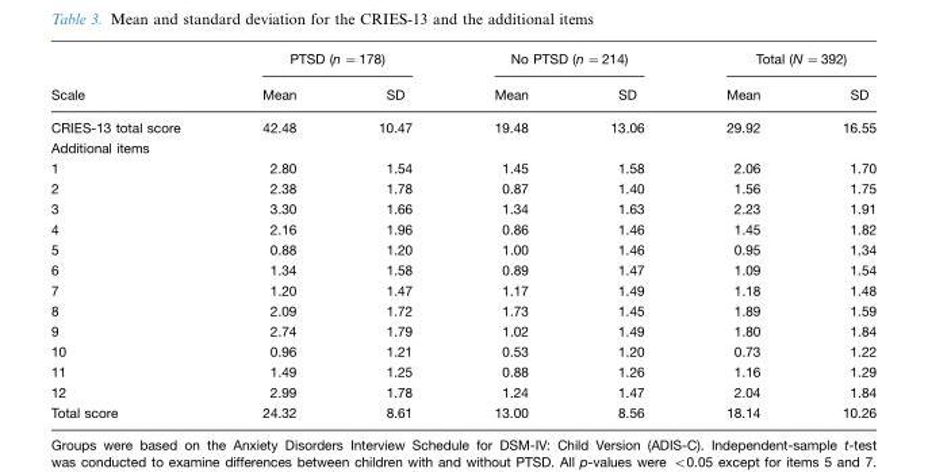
<table><thead><tr><td rowspan="2">Scale</td><td colspan="2">PTSD (n =178)</td><td colspan="2">No PTSD (n =214)</td><td colspan="2">Total (N =392)</td></tr><tr><td>Mean</td><td>SD</td><td>Mean</td><td>SD</td><td>Mean</td><td>SD</td></tr></thead><tbody><tr><td>CRIES-13 total score</td><td>42.48</td><td>10.47</td><td>19.48</td><td>13.06</td><td>29.92</td><td>16.55</td></tr><tr><td colspan="7">Additional items</td></tr><tr><td>1</td><td>2.80</td><td>1.54</td><td>1.45</td><td>1.58</td><td>2.06</td><td>1.70</td></tr><tr><td>2</td><td>2.38</td><td>1.78</td><td>0.87</td><td>1.40</td><td>1.56</td><td>1.75</td></tr><tr><td>3</td><td>3.30</td><td>1.66</td><td>1.34</td><td>1.63</td><td>2.23</td><td>1.91</td></tr><tr><td>4</td><td>2.16</td><td>1.96</td><td>0.86</td><td>1.46</td><td>1.45</td><td>1.82</td></tr><tr><td>5</td><td>0.88</td><td>1.20</td><td>1.00</td><td>1.46</td><td>0.95</td><td>1.34</td></tr><tr><td>6</td><td>1.34</td><td>1.58</td><td>0.89</td><td>1.47</td><td>1.09</td><td>1.54</td></tr><tr><td>7</td><td>1.20</td><td>1.47</td><td>1.17</td><td>1.49</td><td>1.18</td><td>1.48</td></tr><tr><td>8</td><td>2.09</td><td>1.72</td><td>1.73</td><td>1.45</td><td>1.89</td><td>1.59</td></tr><tr><td>9</td><td>2.74</td><td>1.79</td><td>1.02</td><td>1.49</td><td>1.80</td><td>1.84</td></tr><tr><td>10</td><td>0.96</td><td>1.21</td><td>0.53</td><td>1.20</td><td>0.73</td><td>1.22</td></tr><tr><td>11</td><td>1.49</td><td>1.25</td><td>0.88</td><td>1.26</td><td>1.16</td><td>1.29</td></tr><tr><td>12</td><td>2.99</td><td>1.78</td><td>1.24</td><td>1.47</td><td>2.04</td><td>1.84</td></tr><tr><td>Total score</td><td>24.32</td><td>8.61</td><td>13.00</td><td>8.56</td><td>18.14</td><td>10.26</td></tr></tbody></table>